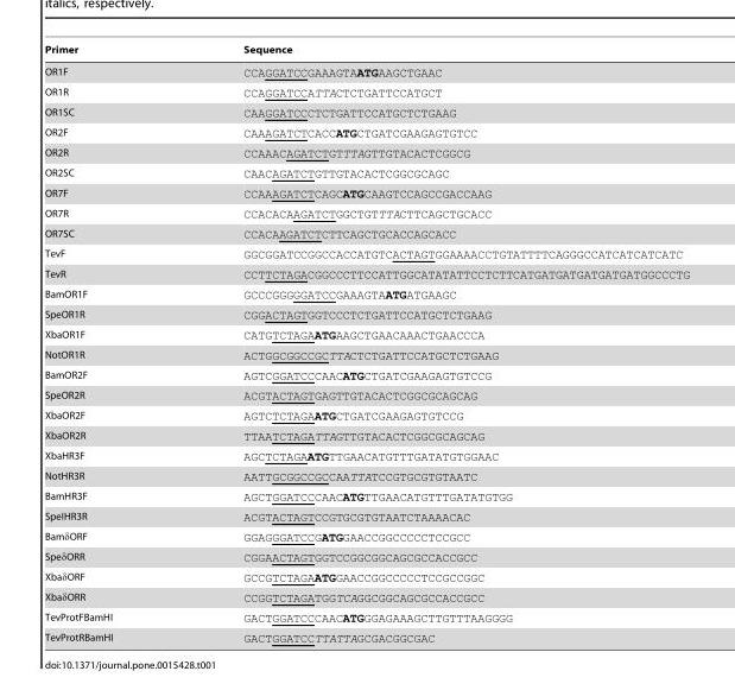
<table><thead><tr><td>Primer</td><td>Sequence</td></tr></thead><tbody><tr><td>OR1F</td><td>CCAGGATCCGAAAGTAATGAAGCTGAAC</td></tr><tr><td>OR1R</td><td>CCAGGATCCATTACTCTGATTCCATGCT</td></tr><tr><td>OR1SC</td><td>CAAGGATCCCTCTGATTCCATGCTCTGAAG</td></tr><tr><td>OR2F</td><td>CAAAGATCTCACCATGCTGATCGAAGAGTGTCC</td></tr><tr><td>OR2R</td><td>CCAAACAGATCTGTTTAGTTGTACACTCGGCG</td></tr><tr><td>OR2SC</td><td>CAACAGATCTGTTGTACACTCGGCGCAGC</td></tr><tr><td>OR7F</td><td>CCAAAGATCTCAGCATGCAAGTCCAGCCGACCAAG</td></tr><tr><td>OR7R</td><td>CCACACAAGATCTGGCTGTTTACTTCAGCTGCACC</td></tr><tr><td>OR7SC</td><td>CCACAAGATCTCTTCAGCTGCACCAGCACC</td></tr><tr><td>TevF</td><td>GGCGGATCCGGCCACCATGTCACTAGTGGAAAACCTGTATTTTCAGGGCCATCATCATCATC</td></tr><tr><td>TevR</td><td>CCTTCTAGACGGCCCTTCCATTGGCATATATTCCTCTTCATGATGATGATGATGATGGCCCTG</td></tr><tr><td>BamOR1F</td><td>GCCCGGGGGATCCGAAAGTAATGATGAAGC</td></tr><tr><td>SpeOR1R</td><td>CGGACTAGTGGTCCCTCTGATTCCATGCTCTGAAG</td></tr><tr><td>XbaOR1F</td><td>CATGTCTAGAATGAAGCTGAACAAACTGAACCCA</td></tr><tr><td>NotOR1R</td><td>ACTGGCGGCCGCTTACTCTGATTCCATGCTCTGAAG</td></tr><tr><td>BamOR2F</td><td>AGTCGGATCCCAACATGCTGATCGAAGAGTGTCCG</td></tr><tr><td>SpeOR2R</td><td>ACGTACTAGTGAGTTGTACACTCGGCGCAGCAG</td></tr><tr><td>XbaOR2F</td><td>AGTCTCTAGAATGCTGATCGAAGAGTGTCCG</td></tr><tr><td>XbaOR2R</td><td>TTAATCTAGATTAGTTGTACACTCGGCGCAGCAG</td></tr><tr><td>XbaHR3F</td><td>AGCTCTAGAATGTTGAACATGTTTGATATGTGGAAC</td></tr><tr><td>NotHR3R</td><td>AATTGCGGCCGCCAATTATCCGTGCGTGTAATC</td></tr><tr><td>BamHR3F</td><td>AGCTGGATCCCAACATGTTGAACATGTTTGATATGTGG</td></tr><tr><td>SpeIHR3R</td><td>ACGTACTAGTCCGTGCGTGTAATCTAAAACAC</td></tr><tr><td>BamδORF</td><td>GGAGGGATCCGATGGAACCGGCCCCCTCCGCC</td></tr><tr><td>SpeδORR</td><td>CGGAACTAGTGGTCCGGCGGCAGCGCCACCGCC</td></tr><tr><td>XbaδORF</td><td>GCCGTCTAGAATGGAACCGGCCCCCTCCGCCGGC</td></tr><tr><td>XbaδORR</td><td>CCGGTCTAGATGGTCAGGCGGCAGCGCCACCGCC</td></tr><tr><td>TevProtFBamHI</td><td>GACTGGATCCCAACATGGGAGAAAGCTTGTTTAAGGGG</td></tr><tr><td>TevProtRBamHI</td><td>GACTGGATCCTTATTAGCGACGGCGAC</td></tr></tbody></table>